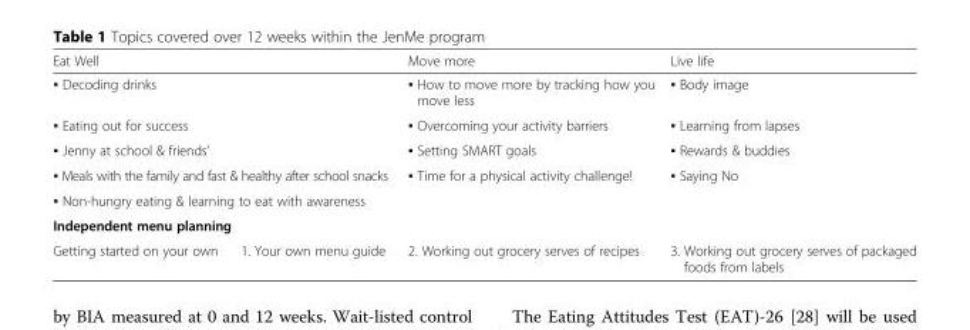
<table><thead><tr><td colspan="2">Eat Well</td><td>Move more</td><td>Live life</td></tr></thead><tbody><tr><td colspan="2">▪ Decoding drinks</td><td>▪ How to move more by tracking how you move less</td><td>▪ Body image</td></tr><tr><td colspan="2">▪ Eating out for success</td><td>▪ Overcoming your activity barriers</td><td>▪ Learning from lapses</td></tr><tr><td colspan="2">▪ Jenny at school &amp; friends’</td><td>▪ Setting SMART goals</td><td>▪ Rewards &amp; buddies</td></tr><tr><td colspan="2">▪ Meals with the family and fast &amp; healthy after school snacks</td><td>▪ Time for a physical activity challenge!</td><td>▪ Saying No</td></tr><tr><td colspan="4">▪ Non-hungry eating &amp; learning to eat with awareness</td></tr><tr><td colspan="4">Independent menu planning</td></tr><tr><td>Getting started on your own</td><td>1. Your own menu guide</td><td>2. Working out grocery serves of recipes</td><td>3. Working out grocery serves of packaged foods from labels</td></tr></tbody></table>